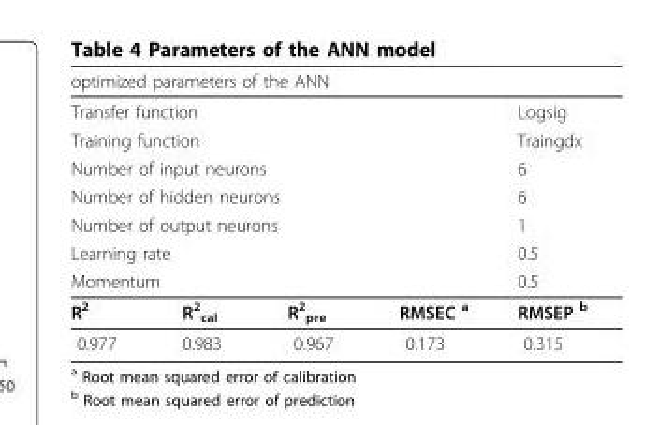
<table><thead><tr><td colspan="5">optimized parameters of the ANN</td></tr></thead><tbody><tr><td colspan="3">Transfer function</td><td></td><td>Logsig</td></tr><tr><td colspan="3">Training function</td><td></td><td>Traingdx</td></tr><tr><td colspan="3">Number of input neurons</td><td></td><td>6</td></tr><tr><td colspan="3">Number of hidden neurons</td><td></td><td>6</td></tr><tr><td colspan="3">Number of output neurons</td><td></td><td>1</td></tr><tr><td colspan="3">Learning rate</td><td></td><td>0.5</td></tr><tr><td colspan="3">Momentum</td><td></td><td>0.5</td></tr><tr><td>R<sup>2</sup></td><td>R<sup>2</sup> <sub>cal</sub></td><td>R<sup>2</sup> <sub>pre</sub></td><td>RMSEC <sup>a</sup></td><td>RMSEP <sup>b</sup></td></tr><tr><td>0.977</td><td>0.983</td><td>0.967</td><td>0.173</td><td>0.315</td></tr></tbody></table>